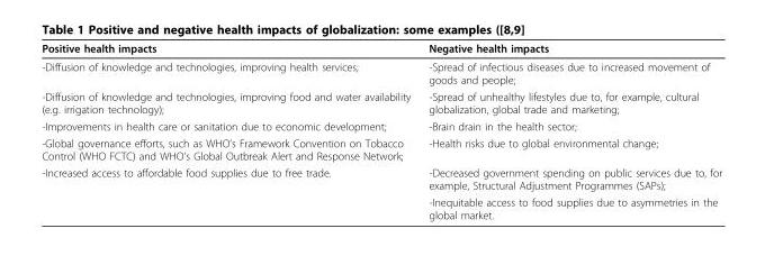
<table><thead><tr><td>Positive health impacts</td><td>Negative health impacts</td></tr></thead><tbody><tr><td>-Diffusion of knowledge and technologies, improving health services;</td><td>-Spread of infectious diseases due to increased movement of goods and people;</td></tr><tr><td>-Diffusion of knowledge and technologies, improving food and water availability (e.g. irrigation technology);</td><td>-Spread of unhealthy lifestyles due to, for example, cultural globalization, global trade and marketing;</td></tr><tr><td>-Improvements in health care or sanitation due to economic development;</td><td>-Brain drain in the health sector;</td></tr><tr><td>-Global governance efforts, such as WHO’s Framework Convention on Tobacco Control (WHO FCTC) and WHO’s Global Outbreak Alert and Response Network;</td><td>-Health risks due to global environmental change;</td></tr><tr><td rowspan="2">-Increased access to affordable food supplies due to free trade.</td><td>-Decreased government spending on public services due to, for example, Structural Adjustment Programmes (SAPs);</td></tr><tr><td>-Inequitable access to food supplies due to asymmetries in the global market.</td></tr></tbody></table>